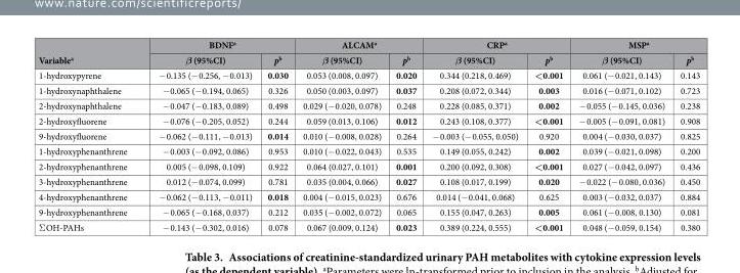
<table><thead><tr><td rowspan="2">Variable<sup>a</sup></td><td colspan="2">BDNF<sup>a</sup></td><td colspan="2">ALCAM<sup>a</sup></td><td colspan="2">CRP<sup>a</sup></td><td colspan="2">MSP<sup>a</sup></td></tr><tr><td>β (95%CI)</td><td>p<sup>b</sup></td><td>β (95%CI)</td><td>p<sup>b</sup></td><td>β (95%CI)</td><td>p<sup>b</sup></td><td>β (95%CI)</td><td>p<sup>b</sup></td></tr></thead><tbody><tr><td>1-hydroxypyrene</td><td>− 0.135 (− 0.256, − 0.013)</td><td>0.030</td><td>0.053 (0.008, 0.097)</td><td>0.020</td><td>0.344 (0.218, 0.469)</td><td>&lt;0.001</td><td>0.061 (− 0.021, 0.143)</td><td>0.143</td></tr><tr><td>1-hydroxynaphthalene</td><td>− 0.065 (− 0.194, 0.065)</td><td>0.326</td><td>0.050 (0.003, 0.097)</td><td>0.037</td><td>0.208 (0.072, 0.344)</td><td>0.003</td><td>0.016 (− 0.071, 0.102)</td><td>0.723</td></tr><tr><td>2-hydroxynaphthalene</td><td>− 0.047 (− 0.183, 0.089)</td><td>0.498</td><td>0.029 (− 0.020, 0.078)</td><td>0.248</td><td>0.228 (0.085, 0.371)</td><td>0.002</td><td>− 0.055 (− 0.145, 0.036)</td><td>0.238</td></tr><tr><td>2-hydroxyfluorene</td><td>− 0.076 (− 0.205, 0.052)</td><td>0.244</td><td>0.059 (0.013, 0.106)</td><td>0.012</td><td>0.243 (0.108, 0.377)</td><td>&lt;0.001</td><td>− 0.005 (− 0.091, 0.081)</td><td>0.908</td></tr><tr><td>9-hydroxyfluorene</td><td>− 0.062 (− 0.111, − 0.013)</td><td>0.014</td><td>0.010 (− 0.008, 0.028)</td><td>0.264</td><td>− 0.003 (− 0.055, 0.050)</td><td>0.920</td><td>0.004 (− 0.030, 0.037)</td><td>0.825</td></tr><tr><td>1-hydroxyphenanthrene</td><td>− 0.003 (− 0.092, 0.086)</td><td>0.953</td><td>0.010 (− 0.022, 0.043)</td><td>0.535</td><td>0.149 (0.055, 0.242)</td><td>0.002</td><td>0.039 (− 0.021, 0.098)</td><td>0.200</td></tr><tr><td>2-hydroxyphenanthrene</td><td>0.005 (− 0.098, 0.109)</td><td>0.922</td><td>0.064 (0.027, 0.101)</td><td>0.001</td><td>0.200 (0.092, 0.308)</td><td>&lt;0.001</td><td>0.027 (− 0.042, 0.097)</td><td>0.436</td></tr><tr><td>3-hydroxyphenanthrene</td><td>0.012 (− 0.074, 0.099)</td><td>0.781</td><td>0.035 (0.004, 0.066)</td><td>0.027</td><td>0.108 (0.017, 0.199)</td><td>0.020</td><td>− 0.022 (− 0.080, 0.036)</td><td>0.450</td></tr><tr><td>4-hydroxyphenanthrene</td><td>− 0.062 (− 0.113, − 0.011)</td><td>0.018</td><td>0.004 (− 0.015, 0.023)</td><td>0.676</td><td>0.014 (− 0.041, 0.068)</td><td>0.625</td><td>0.003 (− 0.032, 0.037)</td><td>0.884</td></tr><tr><td>9-hydroxyphenanthrene</td><td>− 0.065 (− 0.168, 0.037)</td><td>0.212</td><td>0.035 (− 0.002, 0.072)</td><td>0.065</td><td>0.155 (0.047, 0.263)</td><td>0.005</td><td>0.061 (− 0.008, 0.130)</td><td>0.081</td></tr><tr><td>Σ OH-PAHs</td><td>− 0.143 (− 0.302, 0.016)</td><td>0.078</td><td>0.067 (0.009, 0.124)</td><td>0.023</td><td>0.389 (0.224, 0.555)</td><td>&lt;0.001</td><td>0.048 (− 0.059, 0.154)</td><td>0.380</td></tr></tbody></table>